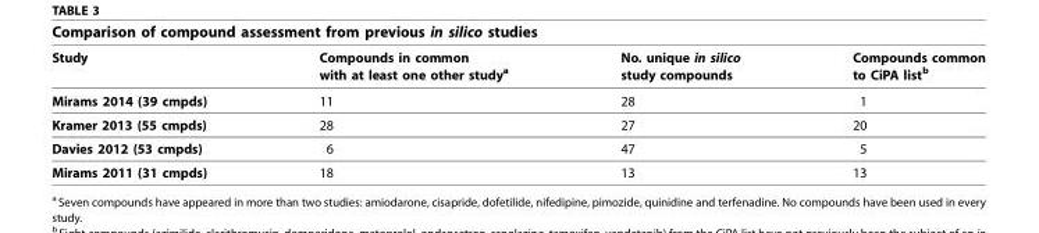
<table><thead><tr><td>Study</td><td>Compounds in common with at least one other study<sup>a</sup></td><td>No. unique in silico study compounds</td><td>Compounds common to CiPA list<sup>b</sup></td></tr></thead><tbody><tr><td>Mirams 2014 (39 cmpds)</td><td>11</td><td>28</td><td>1</td></tr><tr><td>Kramer 2013 (55 cmpds)</td><td>28</td><td>27</td><td>20</td></tr><tr><td>Davies 2012 (53 cmpds)</td><td>6</td><td>47</td><td>5</td></tr><tr><td>Mirams 2011 (31 cmpds)</td><td>18</td><td>13</td><td>13</td></tr></tbody></table>